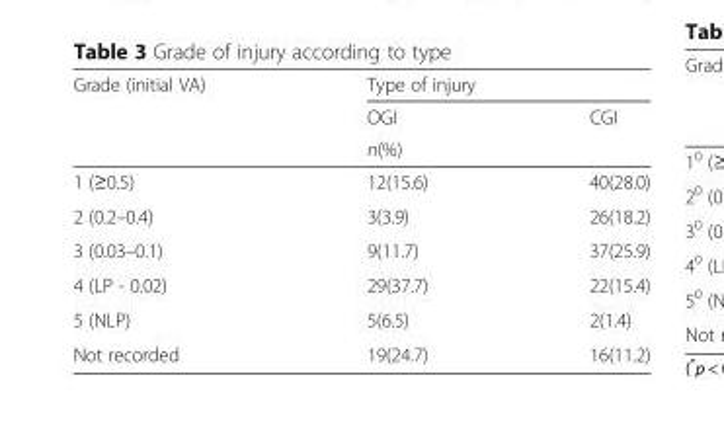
<table><thead><tr><td rowspan="3">Grade (initial VA)</td><td colspan="2">Type of injury</td></tr><tr><td>OGI</td><td>CGI</td></tr><tr><td colspan="2">n(%)</td></tr></thead><tbody><tr><td>1 (≥0.5)</td><td>12(15.6)</td><td>40(28.0)</td></tr><tr><td>2 (0.2–0.4)</td><td>3(3.9)</td><td>26(18.2)</td></tr><tr><td>3 (0.03–0.1)</td><td>9(11.7)</td><td>37(25.9)</td></tr><tr><td>4 (LP - 0.02)</td><td>29(37.7)</td><td>22(15.4)</td></tr><tr><td>5 (NLP)</td><td>5(6.5)</td><td>2(1.4)</td></tr><tr><td>Not recorded</td><td>19(24.7)</td><td>16(11.2)</td></tr></tbody></table>